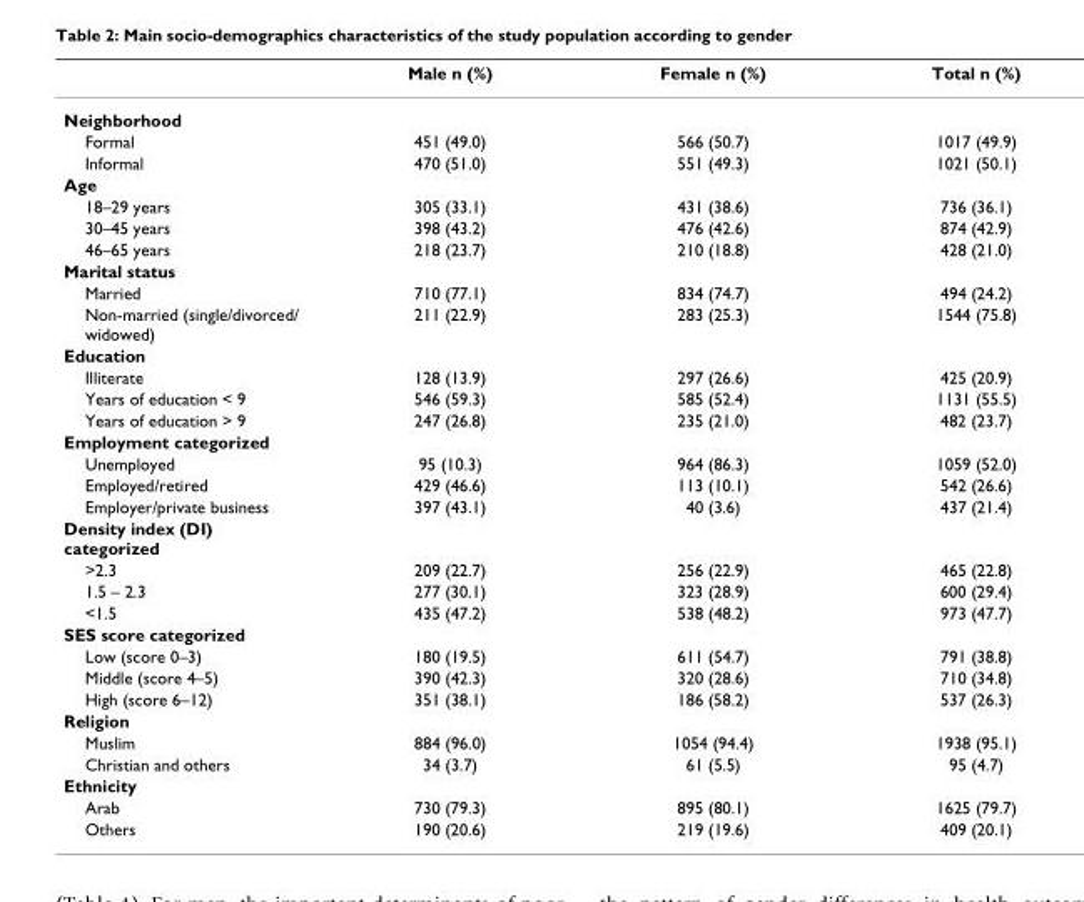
<table><thead><tr><td></td><td>Male n (%)</td><td>Female n (%)</td><td>Total n (%)</td></tr></thead><tbody><tr><td colspan="4">Neighborhood</td></tr><tr><td>Formal</td><td>451 (49.0)</td><td>566 (50.7)</td><td>1017 (49.9)</td></tr><tr><td>Informal</td><td>470 (51.0)</td><td>551 (49.3)</td><td>1021 (50.1)</td></tr><tr><td colspan="4">Age</td></tr><tr><td>18–29 years</td><td>305 (33.1)</td><td>431 (38.6)</td><td>736 (36.1)</td></tr><tr><td>30–45 years</td><td>398 (43.2)</td><td>476 (42.6)</td><td>874 (42.9)</td></tr><tr><td>46–65 years</td><td>218 (23.7)</td><td>210 (18.8)</td><td>428 (21.0)</td></tr><tr><td colspan="4">Marital status</td></tr><tr><td>Married</td><td>710 (77.1)</td><td>834 (74.7)</td><td>494 (24.2)</td></tr><tr><td>Non-married (single/divorced/ widowed)</td><td>211 (22.9)</td><td>283 (25.3)</td><td>1544 (75.8)</td></tr><tr><td colspan="4">Education</td></tr><tr><td>Illiterate</td><td>128 (13.9)</td><td>297 (26.6)</td><td>425 (20.9)</td></tr><tr><td>Years of education &lt; 9</td><td>546 (59.3)</td><td>585 (52.4)</td><td>1131 (55.5)</td></tr><tr><td>Years of education &gt; 9</td><td>247 (26.8)</td><td>235 (21.0)</td><td>482 (23.7)</td></tr><tr><td colspan="4">Employment categorized</td></tr><tr><td>Unemployed</td><td>95 (10.3)</td><td>964 (86.3)</td><td>1059 (52.0)</td></tr><tr><td>Employed/retired</td><td>429 (46.6)</td><td>113 (10.1)</td><td>542 (26.6)</td></tr><tr><td>Employer/private business</td><td>397 (43.1)</td><td>40 (3.6)</td><td>437 (21.4)</td></tr><tr><td colspan="4">Density index (DI) categorized</td></tr><tr><td>&gt;2.3</td><td>209 (22.7)</td><td>256 (22.9)</td><td>465 (22.8)</td></tr><tr><td>1.5 – 2.3</td><td>277 (30.1)</td><td>323 (28.9)</td><td>600 (29.4)</td></tr><tr><td>&lt;1.5</td><td>435 (47.2)</td><td>538 (48.2)</td><td>973 (47.7)</td></tr><tr><td colspan="4">SES score categorized</td></tr><tr><td>Low (score 0–3)</td><td>180 (19.5)</td><td>611 (54.7)</td><td>791 (38.8)</td></tr><tr><td>Middle (score 4–5)</td><td>390 (42.3)</td><td>320 (28.6)</td><td>710 (34.8)</td></tr><tr><td>High (score 6–12)</td><td>351 (38.1)</td><td>186 (58.2)</td><td>537 (26.3)</td></tr><tr><td colspan="4">Religion</td></tr><tr><td>Muslim</td><td>884 (96.0)</td><td>1054 (94.4)</td><td>1938 (95.1)</td></tr><tr><td>Christian and others</td><td>34 (3.7)</td><td>61 (5.5)</td><td>95 (4.7)</td></tr><tr><td colspan="4">Ethnicity</td></tr><tr><td>Arab</td><td>730 (79.3)</td><td>895 (80.1)</td><td>1625 (79.7)</td></tr><tr><td>Others</td><td>190 (20.6)</td><td>219 (19.6)</td><td>409 (20.1)</td></tr></tbody></table>